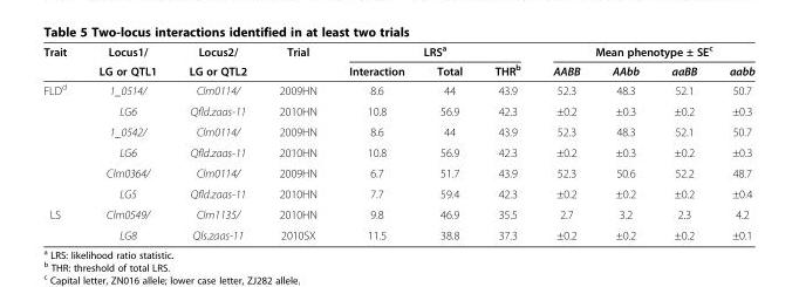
<table><thead><tr><td rowspan="2">Trait</td><td rowspan="2">Locus1/ LG or QTL1</td><td rowspan="2">Locus2/ LG or QTL2</td><td rowspan="2">Trial</td><td colspan="3">LRS<sup>a</sup></td><td colspan="4">Mean phenotype ± SE<sup>c</sup></td></tr><tr><td>Interaction</td><td>Total</td><td>THR<sup>b</sup></td><td>AABB</td><td>AAbb</td><td>aaBB</td><td>aabb</td></tr></thead><tbody><tr><td rowspan="6">FLD<sup>d</sup></td><td>1_0514/</td><td>Clm0114/</td><td>2009HN</td><td>8.6</td><td>44</td><td>43.9</td><td>52.3</td><td>48.3</td><td>52.1</td><td>50.7</td></tr><tr><td>LG6</td><td>Qfld.zaas-11</td><td>2010HN</td><td>10.8</td><td>56.9</td><td>42.3</td><td>±0.2</td><td>±0.3</td><td>±0.2</td><td>±0.3</td></tr><tr><td>1_0542/</td><td>Clm0114/</td><td>2009HN</td><td>8.6</td><td>44</td><td>43.9</td><td>52.3</td><td>48.3</td><td>52.1</td><td>50.7</td></tr><tr><td>LG6</td><td>Qfld.zaas-11</td><td>2010HN</td><td>10.8</td><td>56.9</td><td>42.3</td><td>±0.2</td><td>±0.3</td><td>±0.2</td><td>±0.3</td></tr><tr><td>Clm0364/</td><td>Clm0114/</td><td>2009HN</td><td>6.7</td><td>51.7</td><td>43.9</td><td>52.3</td><td>50.6</td><td>52.2</td><td>48.7</td></tr><tr><td>LG5</td><td>Qfld.zaas-11</td><td>2010HN</td><td>7.7</td><td>59.4</td><td>42.3</td><td>±0.2</td><td>±0.2</td><td>±0.2</td><td>±0.4</td></tr><tr><td rowspan="2">LS</td><td>Clm0549/</td><td>Clm1135/</td><td>2010HN</td><td>9.8</td><td>46.9</td><td>35.5</td><td>2.7</td><td>3.2</td><td>2.3</td><td>4.2</td></tr><tr><td>LG8</td><td>Qls.zaas-11</td><td>2010SX</td><td>11.5</td><td>38.8</td><td>37.3</td><td>±0.2</td><td>±0.2</td><td>±0.2</td><td>±0.1</td></tr></tbody></table>